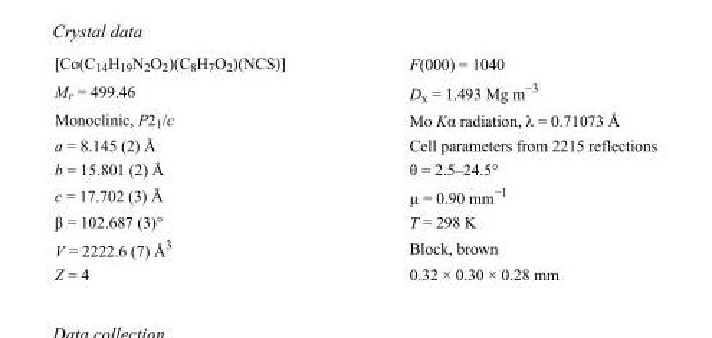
<table><tbody><tr><td>[Co(C<sub>14</sub>H<sub>19</sub>N<sub>2</sub>O<sub>2</sub>)(C<sub>8</sub>H<sub>7</sub>O<sub>2</sub>)(NCS)]</td><td>F(000) = 1040</td></tr><tr><td>M<sub>r</sub> = 499.46</td><td>D<sub>x</sub> = 1.493 Mg m<sup>−3</sup></td></tr><tr><td>Monoclinic, P2<sub>1</sub>/c</td><td>Mo Kα radiation, λ = 0.71073 Å</td></tr><tr><td>a = 8.145 (2) Å</td><td>Cell parameters from 2215 reflections</td></tr><tr><td>b = 15.801 (2) Å</td><td>θ = 2.5–24.5°</td></tr><tr><td>c = 17.702 (3) Å</td><td>µ = 0.90 mm<sup>−1</sup></td></tr><tr><td>β = 102.687 (3)°</td><td>T = 298 K</td></tr><tr><td>V = 2222.6 (7) Å<sup>3</sup></td><td>Block, brown</td></tr><tr><td>Z = 4</td><td>0.32 × 0.30 × 0.28 mm</td></tr></tbody></table>